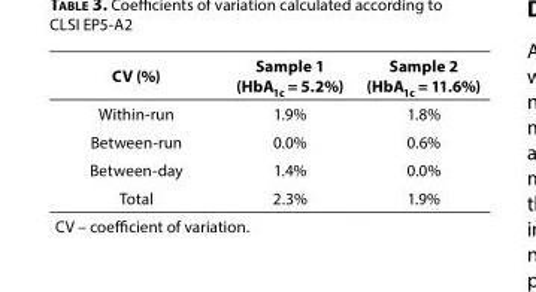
<table><thead><tr><td>CV (%)</td><td>Sample 1 (HbA<sub>1c</sub> = 5.2%)</td><td>Sample 2 (HbA<sub>1c</sub> = 11.6%)</td></tr></thead><tbody><tr><td>Within-run</td><td>1.9%</td><td>1.8%</td></tr><tr><td>Between-run</td><td>0.0%</td><td>0.6%</td></tr><tr><td>Between-day</td><td>1.4%</td><td>0.0%</td></tr><tr><td>Total</td><td>2.3%</td><td>1.9%</td></tr><tr><td colspan="3">CV – coefficient of variation.</td></tr></tbody></table>